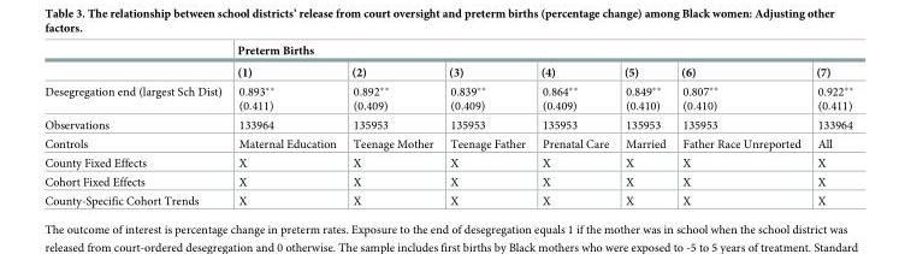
<table><thead><tr><td rowspan="2"></td><td colspan="7">Preterm Births</td></tr><tr><td>(1)</td><td>(2)</td><td>(3)</td><td>(4)</td><td>(5)</td><td>(6)</td><td>(7)</td></tr></thead><tbody><tr><td>Desegregation end (largest Sch Dist)</td><td>0.893** (0.411)</td><td>0.892** (0.409)</td><td>0.839** (0.409)</td><td>0.864** (0.409)</td><td>0.849** (0.410)</td><td>0.807** (0.410)</td><td>0.922** (0.411)</td></tr><tr><td>Observations</td><td>133964</td><td>135953</td><td>135953</td><td>135953</td><td>135953</td><td>135953</td><td>133964</td></tr><tr><td>Controls</td><td>Maternal Education</td><td>Teenage Mother</td><td>Teenage Father</td><td>Prenatal Care</td><td>Married</td><td>Father Race Unreported</td><td>All</td></tr><tr><td>County Fixed Effects</td><td>X</td><td>X</td><td>X</td><td>X</td><td>X</td><td>X</td><td>X</td></tr><tr><td>Cohort Fixed Effects</td><td>X</td><td>X</td><td>X</td><td>X</td><td>X</td><td>X</td><td>X</td></tr><tr><td>County-Specific Cohort Trends</td><td>X</td><td>X</td><td>X</td><td>X</td><td>X</td><td>X</td><td>X</td></tr></tbody></table>